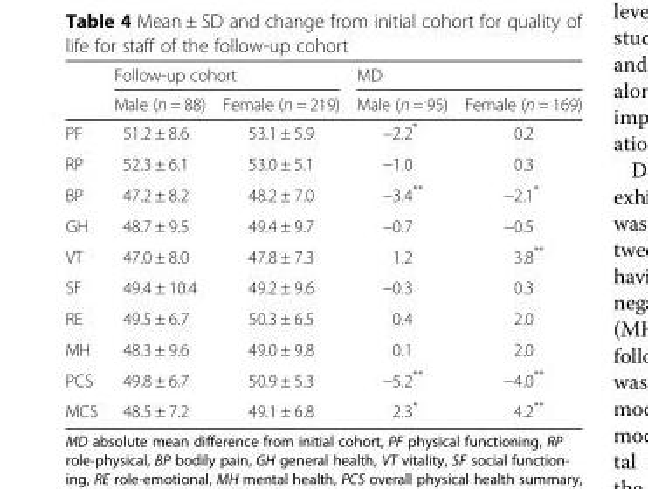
<table><thead><tr><td rowspan="2"></td><td colspan="2">Follow-up cohort</td><td colspan="2">MD</td></tr><tr><td>Male (n = 88)</td><td>Female (n = 219)</td><td>Male (n = 95)</td><td>Female (n = 169)</td></tr></thead><tbody><tr><td>PF</td><td>51.2 ± 8.6</td><td>53.1 ± 5.9</td><td>−2.2*</td><td>0.2</td></tr><tr><td>RP</td><td>52.3 ± 6.1</td><td>53.0 ± 5.1</td><td>−1.0</td><td>0.3</td></tr><tr><td>BP</td><td>47.2 ± 8.2</td><td>48.2 ± 7.0</td><td>−3.4**</td><td>−2.1*</td></tr><tr><td>GH</td><td>48.7 ± 9.5</td><td>49.4 ± 9.7</td><td>−0.7</td><td>−0.5</td></tr><tr><td>VT</td><td>47.0 ± 8.0</td><td>47.8 ± 7.3</td><td>1.2</td><td>3.8**</td></tr><tr><td>SF</td><td>49.4 ± 10.4</td><td>49.2 ± 9.6</td><td>−0.3</td><td>0.3</td></tr><tr><td>RE</td><td>49.5 ± 6.7</td><td>50.3 ± 6.5</td><td>0.4</td><td>2.0</td></tr><tr><td>MH</td><td>48.3 ± 9.6</td><td>49.0 ± 9.8</td><td>0.1</td><td>2.0</td></tr><tr><td>PCS</td><td>49.8 ± 6.7</td><td>50.9 ± 5.3</td><td>−5.2**</td><td>−4.0**</td></tr><tr><td>MCS</td><td>48.5 ± 7.2</td><td>49.1 ± 6.8</td><td>2.3*</td><td>4.2**</td></tr></tbody></table>